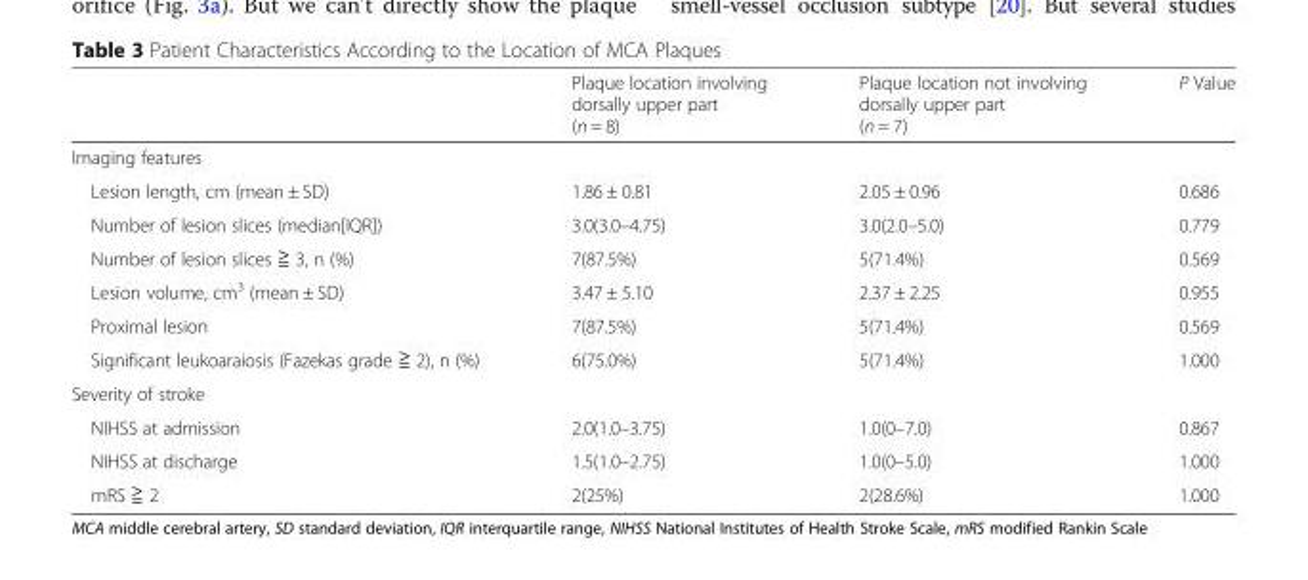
<table><thead><tr><td></td><td>Plaque location involving dorsally upper part (n = 8)</td><td>Plaque location not involving dorsally upper part (n = 7)</td><td>P Value</td></tr></thead><tbody><tr><td colspan="4">Imaging features</td></tr><tr><td>Lesion length, cm (mean ± SD)</td><td>1.86 ± 0.81</td><td>2.05 ± 0.96</td><td>0.686</td></tr><tr><td>Number of lesion slices (median[IQR])</td><td>3.0(3.0–4.75)</td><td>3.0(2.0–5.0)</td><td>0.779</td></tr><tr><td>Number of lesion slices ≧ 3, n (%)</td><td>7(87.5%)</td><td>5(71.4%)</td><td>0.569</td></tr><tr><td>Lesion volume, cm<sup>3</sup> (mean ± SD)</td><td>3.47 ± 5.10</td><td>2.37 ± 2.25</td><td>0.955</td></tr><tr><td>Proximal lesion</td><td>7(87.5%)</td><td>5(71.4%)</td><td>0.569</td></tr><tr><td>Significant leukoaraiosis (Fazekas grade ≧ 2), n (%)</td><td>6(75.0%)</td><td>5(71.4%)</td><td>1.000</td></tr><tr><td colspan="4">Severity of stroke</td></tr><tr><td>NIHSS at admission</td><td>2.0(1.0–3.75)</td><td>1.0(0–7.0)</td><td>0.867</td></tr><tr><td>NIHSS at discharge</td><td>1.5(1.0–2.75)</td><td>1.0(0–5.0)</td><td>1.000</td></tr><tr><td>mRS ≧ 2</td><td>2(25%)</td><td>2(28.6%)</td><td>1.000</td></tr></tbody></table>